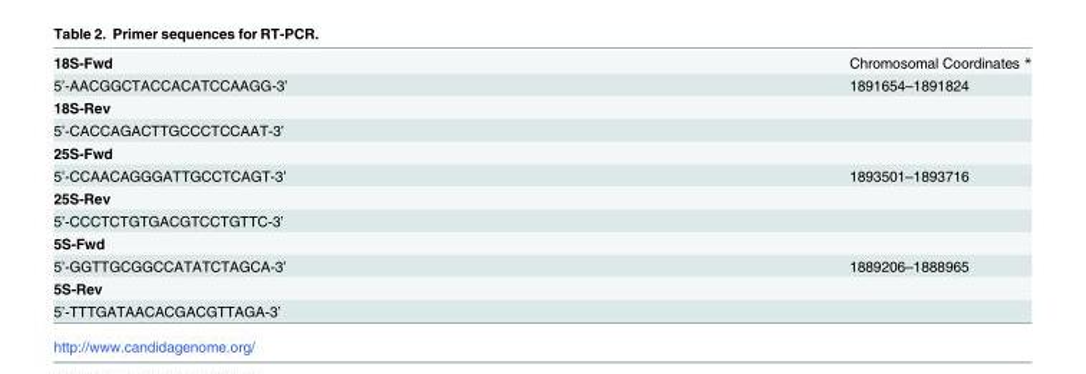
<table><tbody><tr><td>18S-Fwd</td><td>Chromosomal Coordinates *</td></tr><tr><td>5’-AACGGCTACCACATCCAAGG-3’</td><td>1891654–1891824</td></tr><tr><td colspan="2">18S-Rev</td></tr><tr><td colspan="2">5’-CACCAGACTTGCCCTCCAAT-3’</td></tr><tr><td colspan="2">25S-Fwd</td></tr><tr><td>5’-CCAACAGGGATTGCCTCAGT-3’</td><td>1893501–1893716</td></tr><tr><td colspan="2">25S-Rev</td></tr><tr><td colspan="2">5’-CCCTCTGTGACGTCCTGTTC-3’</td></tr><tr><td colspan="2">5S-Fwd</td></tr><tr><td>5’-GGTTGCGGCCATATCTAGCA-3’</td><td>1889206–1888965</td></tr><tr><td colspan="2">5S-Rev</td></tr><tr><td>5’-TTTGATAACACGACGTTAGA-3’</td><td></td></tr></tbody></table>